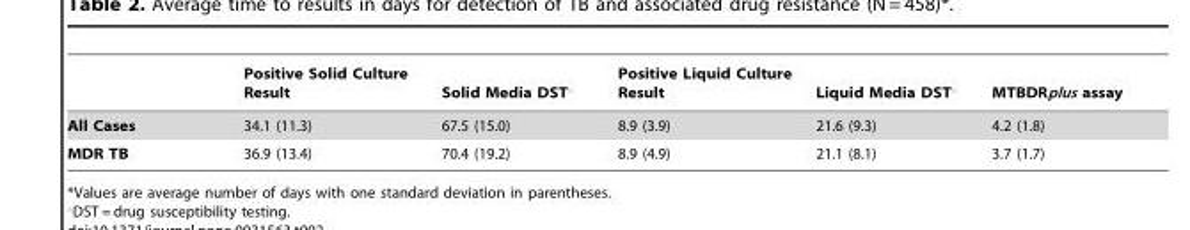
<table><thead><tr><td></td><td>Positive Solid Culture Result</td><td>Solid Media DST‘</td><td>Positive Liquid Culture Result</td><td>Liquid Media DST‘</td><td>MTBDRplus assay</td></tr></thead><tbody><tr><td>All Cases</td><td>34.1 (11.3)</td><td>67.5 (15.0)</td><td>8.9 (3.9)</td><td>21.6 (9.3)</td><td>4.2 (1.8)</td></tr><tr><td>MDR TB</td><td>36.9 (13.4)</td><td>70.4 (19.2)</td><td>8.9 (4.9)</td><td>21.1 (8.1)</td><td>3.7 (1.7)</td></tr></tbody></table>